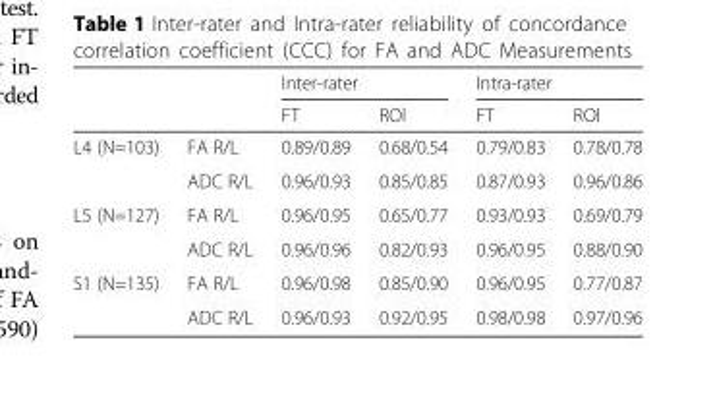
<table><thead><tr><td rowspan="2"></td><td rowspan="2"></td><td colspan="2">Inter-rater</td><td colspan="2">Intra-rater</td></tr><tr><td>FT</td><td>ROl</td><td>FT</td><td>ROl</td></tr></thead><tbody><tr><td rowspan="2">L4 (N=103)</td><td>FA R/L</td><td>0.89/0.89</td><td>0.68/0.54</td><td>0.79/0.83</td><td>0.78/0.78</td></tr><tr><td>ADC R/L</td><td>0.96/0.93</td><td>0.85/0.85</td><td>0.87/0.93</td><td>0.96/0.86</td></tr><tr><td rowspan="2">L5 (N=127)</td><td>FA R/L</td><td>0.96/0.95</td><td>0.65/0.77</td><td>0.93/0.93</td><td>0.69/0.79</td></tr><tr><td>ADC R/L</td><td>0.96/0.96</td><td>0.82/0.93</td><td>0.96/0.95</td><td>0.88/0.90</td></tr><tr><td rowspan="2">S1 (N=135)</td><td>FA R/L</td><td>0.96/0.98</td><td>0.85/0.90</td><td>0.96/0.95</td><td>0.77/0.87</td></tr><tr><td>ADC R/L</td><td>0.96/0.93</td><td>0.92/0.95</td><td>0.98/0.98</td><td>0.97/0.96</td></tr></tbody></table>